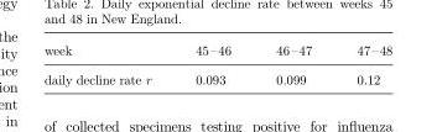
<table><thead><tr><td>week</td><td>45–46</td><td>46–47</td><td>47–48</td></tr></thead><tbody><tr><td>daily decline rate r</td><td>0.093</td><td>0.099</td><td>0.12</td></tr></tbody></table>